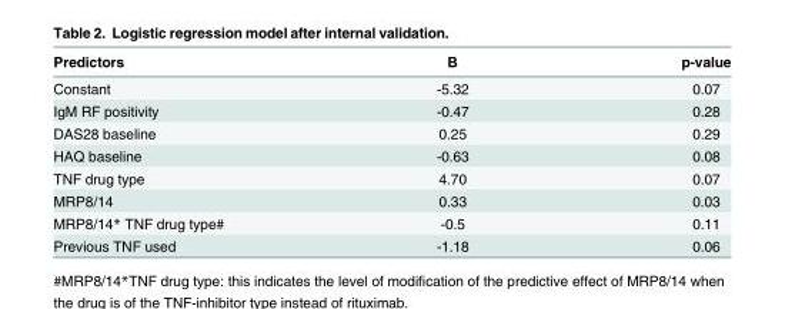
<table><thead><tr><td>Predictors</td><td>Β</td><td>p-value</td></tr></thead><tbody><tr><td>Constant</td><td>-5.32</td><td>0.07</td></tr><tr><td>IgM RF positivity</td><td>-0.47</td><td>0.28</td></tr><tr><td>DAS28 baseline</td><td>0.25</td><td>0.29</td></tr><tr><td>HAQ baseline</td><td>-0.63</td><td>0.08</td></tr><tr><td>TNF drug type</td><td>4.70</td><td>0.07</td></tr><tr><td>MRP8/14</td><td>0.33</td><td>0.03</td></tr><tr><td>MRP8/14* TNF drug type#</td><td>-0.5</td><td>0.11</td></tr><tr><td>Previous TNF used</td><td>-1.18</td><td>0.06</td></tr></tbody></table>